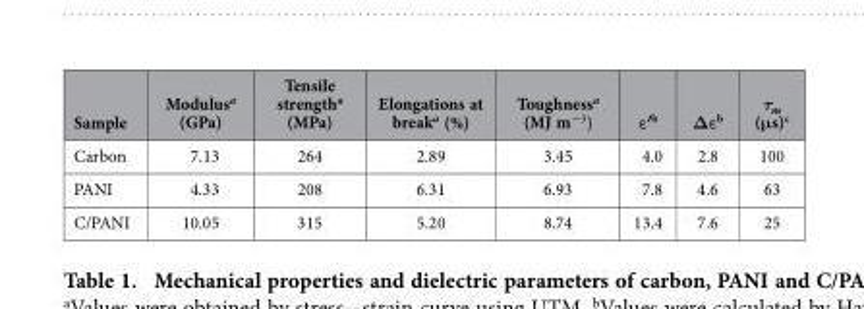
<table><thead><tr><td>Sample</td><td>Modulus<sup>a</sup> (GPa)</td><td>Tensile strength<sup>a</sup> (MPa)</td><td>Elongations at break<sup>a</sup> (%)</td><td>Toughness<sup>a</sup> (MJ m<sup>−3</sup>)</td><td>ε′<sup>b</sup></td><td>Δε<sup>b</sup></td><td>τm (μs)c</td></tr></thead><tbody><tr><td>Carbon</td><td>7.13</td><td>264</td><td>2.89</td><td>3.45</td><td>4.0</td><td>2.8</td><td>100</td></tr><tr><td>PANI</td><td>4.33</td><td>208</td><td>6.31</td><td>6.93</td><td>7.8</td><td>4.6</td><td>63</td></tr><tr><td>C/PANI</td><td>10.05</td><td>315</td><td>5.20</td><td>8.74</td><td>13.4</td><td>7.6</td><td>25</td></tr></tbody></table>